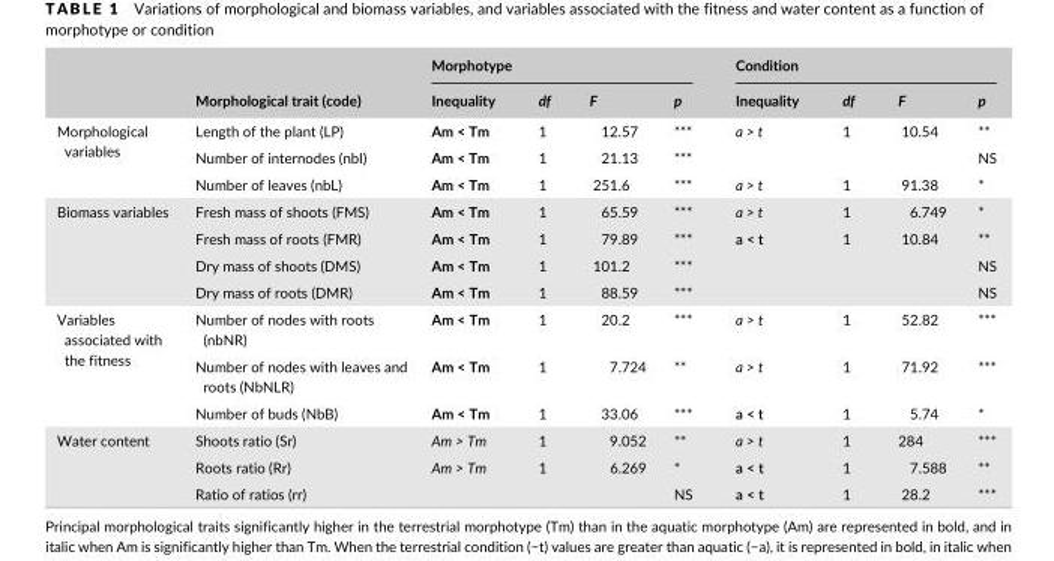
<table><thead><tr><td rowspan="2"></td><td rowspan="2">Morphological trait (code)</td><td colspan="4">Morphotype</td><td colspan="4">Condition</td></tr><tr><td>Inequality</td><td>df</td><td>F</td><td>p</td><td>Inequality</td><td>df</td><td>F</td><td>p</td></tr></thead><tbody><tr><td rowspan="3">Morphological variables</td><td>Length of the plant (LP)</td><td>Am &lt; Tm</td><td>1</td><td>12.57</td><td>***</td><td>a &gt; t</td><td>1</td><td>10.54</td><td>**</td></tr><tr><td>Number of internodes (nbI)</td><td>Am &lt; Tm</td><td>1</td><td>21.13</td><td>***</td><td></td><td></td><td></td><td>NS</td></tr><tr><td>Number of leaves (nbL)</td><td>Am &lt; Tm</td><td>1</td><td>251.6</td><td>***</td><td>a &gt; t</td><td>1</td><td>91.38</td><td>*</td></tr><tr><td rowspan="4">Biomass variables</td><td>Fresh mass of shoots (FMS)</td><td>Am &lt; Tm</td><td>1</td><td>65.59</td><td>***</td><td>a &gt; t</td><td>1</td><td>6.749</td><td>*</td></tr><tr><td>Fresh mass of roots (FMR)</td><td>Am &lt; Tm</td><td>1</td><td>79.89</td><td>***</td><td>a &lt; t</td><td>1</td><td>10.84</td><td>**</td></tr><tr><td>Dry mass of shoots (DMS)</td><td>Am &lt; Tm</td><td>1</td><td>101.2</td><td>***</td><td></td><td></td><td></td><td>NS</td></tr><tr><td>Dry mass of roots (DMR)</td><td>Am &lt; Tm</td><td>1</td><td>88.59</td><td>***</td><td></td><td></td><td></td><td>NS</td></tr><tr><td rowspan="3">Variables associated with the fitness</td><td>Number of nodes with roots (nbNR)</td><td>Am &lt; Tm</td><td>1</td><td>20.2</td><td>***</td><td>a &gt; t</td><td>1</td><td>52.82</td><td>***</td></tr><tr><td>Number of nodes with leaves and roots (NbNLR)</td><td>Am &lt; Tm</td><td>1</td><td>7.724</td><td>**</td><td>a &gt; t</td><td>1</td><td>71.92</td><td>***</td></tr><tr><td>Number of buds (NbB)</td><td>Am &lt; Tm</td><td>1</td><td>33.06</td><td>***</td><td>a &lt; t</td><td>1</td><td>5.74</td><td>*</td></tr><tr><td rowspan="3">Water content</td><td>Shoots ratio (Sr)</td><td>Am &gt; Tm</td><td>1</td><td>9.052</td><td>**</td><td>a &gt; t</td><td>1</td><td>284</td><td>***</td></tr><tr><td>Roots ratio (Rr)</td><td>Am &gt; Tm</td><td>1</td><td>6.269</td><td>*</td><td>a &lt; t</td><td>1</td><td>7.588</td><td>**</td></tr><tr><td>Ratio of ratios (rr)</td><td></td><td></td><td></td><td>NS</td><td>a &lt; t</td><td>1</td><td>28.2</td><td>***</td></tr></tbody></table>